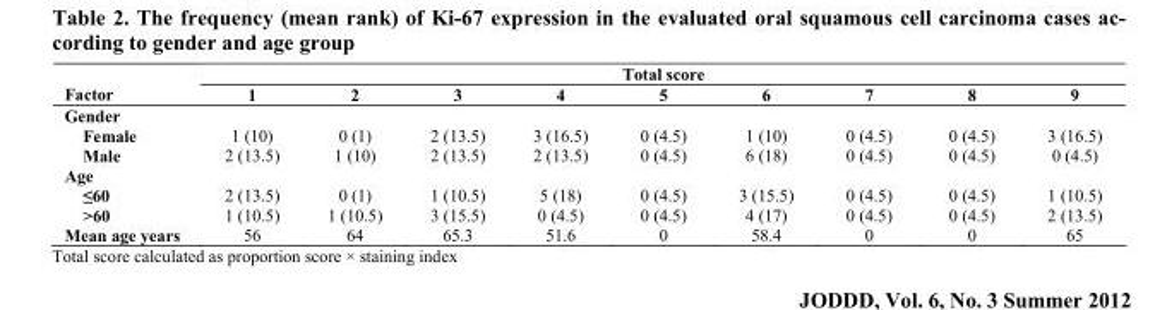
<table><thead><tr><td rowspan="2">Factor</td><td colspan="9">Total score</td></tr><tr><td>1</td><td>2</td><td>3</td><td>4</td><td>5</td><td>6</td><td>7</td><td>8</td><td>9</td></tr></thead><tbody><tr><td colspan="10">Gender</td></tr><tr><td>Female</td><td>1 (10)</td><td>0 (1)</td><td>2 (13.5)</td><td>3 (16.5)</td><td>0 (4.5)</td><td>1 (10)</td><td>0 (4.5)</td><td>0 (4.5)</td><td>3 (16.5)</td></tr><tr><td>Male</td><td>2 (13.5)</td><td>1 (10)</td><td>2 (13.5)</td><td>2 (13.5)</td><td>0 (4.5)</td><td>6 (18)</td><td>0 (4.5)</td><td>0 (4.5)</td><td>0 (4.5)</td></tr><tr><td colspan="10">Age</td></tr><tr><td>≤60</td><td>2 (13.5)</td><td>0 (1)</td><td>1 (10.5)</td><td>5 (18)</td><td>0 (4.5)</td><td>3 (15.5)</td><td>0 (4.5)</td><td>0 (4.5)</td><td>1 (10.5)</td></tr><tr><td>&gt;60</td><td>1 (10.5)</td><td>1 (10.5)</td><td>3 (15.5)</td><td>0 (4.5)</td><td>0 (4.5)</td><td>4 (17)</td><td>0 (4.5)</td><td>0 (4.5)</td><td>2 (13.5)</td></tr><tr><td>Mean age years</td><td>56</td><td>64</td><td>65.3</td><td>51.6</td><td>0</td><td>58.4</td><td>0</td><td>0</td><td>65</td></tr></tbody></table>